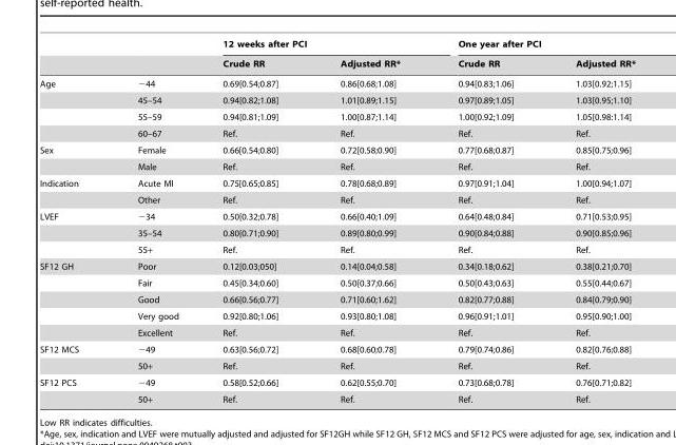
<table><thead><tr><td rowspan="2"></td><td rowspan="2"></td><td colspan="2">12 weeks after PCI</td><td colspan="2">One year after PCI</td></tr><tr><td>Crude RR</td><td>Adjusted RR*</td><td>Crude RR</td><td>Adjusted RR*</td></tr></thead><tbody><tr><td rowspan="4">Age</td><td>−44</td><td>0.69[0.54;0.87]</td><td>0.86[0.68;1.08]</td><td>0.94[0.83;1.06]</td><td>1.03[0.92;1.15]</td></tr><tr><td>45–54</td><td>0.94[0.82;1.08]</td><td>1.01[0.89;1.15]</td><td>0.97[0.89;1.05]</td><td>1.03[0.95;1.10]</td></tr><tr><td>55–59</td><td>0.94[0.81;1.09]</td><td>1.00[0.87;1.14]</td><td>1.00[0.92;1.09]</td><td>1.05[0.98:1.14]</td></tr><tr><td>60–67</td><td>Ref.</td><td>Ref.</td><td>Ref.</td><td>Ref.</td></tr><tr><td rowspan="2">Sex</td><td>Female</td><td>0.66[0.54;0.80]</td><td>0.72[0.58;0.90]</td><td>0.77[0.68;0.87]</td><td>0.85[0.75;0.96]</td></tr><tr><td>Male</td><td>Ref.</td><td>Ref.</td><td>Ref.</td><td>Ref.</td></tr><tr><td rowspan="2">Indication</td><td>Acute MI</td><td>0.75[0.65;0.85]</td><td>0.78[0.68;0.89]</td><td>0.97[0.91;1.04]</td><td>1.00[0.94;1.07]</td></tr><tr><td>Other</td><td>Ref.</td><td>Ref.</td><td>Ref.</td><td>Ref.</td></tr><tr><td rowspan="3">LVEF</td><td>−34</td><td>0.50[0.32;0.78]</td><td>0.66[0.40;1.09]</td><td>0.64[0.48;0.84]</td><td>0.71[0.53;0.95]</td></tr><tr><td>35–54</td><td>0.80[0.71;0.90]</td><td>0.89[0.80;0.99]</td><td>0.90[0.84;0.88]</td><td>0.90[0.85;0.96]</td></tr><tr><td>55+</td><td>Ref.</td><td>Ref.</td><td>Ref.</td><td>Ref.</td></tr><tr><td rowspan="5">SF12 GH</td><td>Poor</td><td>0.12[0.03;050]</td><td>0.14[0.04;0.58]</td><td>0.34[0.18;0.62]</td><td>0.38[0.21;0.70]</td></tr><tr><td>Fair</td><td>0.45[0.34;0.60]</td><td>0.50[0.37;0.66]</td><td>0.50[0.43;0.63]</td><td>0.55[0.44;0.67]</td></tr><tr><td>Good</td><td>0.66[0.56;0.77]</td><td>0.71[0.60;1.62]</td><td>0.82[0.77;0.88]</td><td>0.84[0.79;0.90]</td></tr><tr><td>Very good</td><td>0.92[0.80;1.06]</td><td>0.93[0.80;1.08]</td><td>0.96[0.91;1.01]</td><td>0.95[0.90;1.00]</td></tr><tr><td>Excellent</td><td>Ref.</td><td>Ref.</td><td>Ref.</td><td>Ref.</td></tr><tr><td rowspan="2">SF12 MCS</td><td>−49</td><td>0.63[0.56;0.72]</td><td>0.68[0.60;0.78]</td><td>0.79[0.74;0.86]</td><td>0.82[0.76;0.88]</td></tr><tr><td>50+</td><td>Ref.</td><td>Ref.</td><td>Ref.</td><td>Ref.</td></tr><tr><td rowspan="2">SF12 PCS</td><td>−49</td><td>0.58[0.52;0.66]</td><td>0.62[0.55;0.70]</td><td>0.73[0.68;0.78]</td><td>0.76[0.71;0.82]</td></tr><tr><td>50+</td><td>Ref.</td><td>Ref.</td><td>Ref.</td><td>Ref.</td></tr></tbody></table>